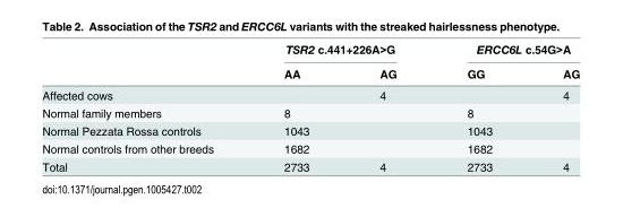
<table><thead><tr><td rowspan="2"></td><td colspan="2">TSR2 c.441+226A&gt;G</td><td colspan="2">ERCC6L c.54G&gt;A</td></tr><tr><td>AA</td><td>AG</td><td>GG</td><td>AG</td></tr></thead><tbody><tr><td>Affected cows</td><td></td><td>4</td><td></td><td>4</td></tr><tr><td>Normal family members</td><td>8</td><td></td><td>8</td><td></td></tr><tr><td>Normal Pezzata Rossa controls</td><td>1043</td><td></td><td>1043</td><td></td></tr><tr><td>Normal controls from other breeds</td><td>1682</td><td></td><td>1682</td><td></td></tr><tr><td>Total</td><td>2733</td><td>4</td><td>2733</td><td>4</td></tr></tbody></table>